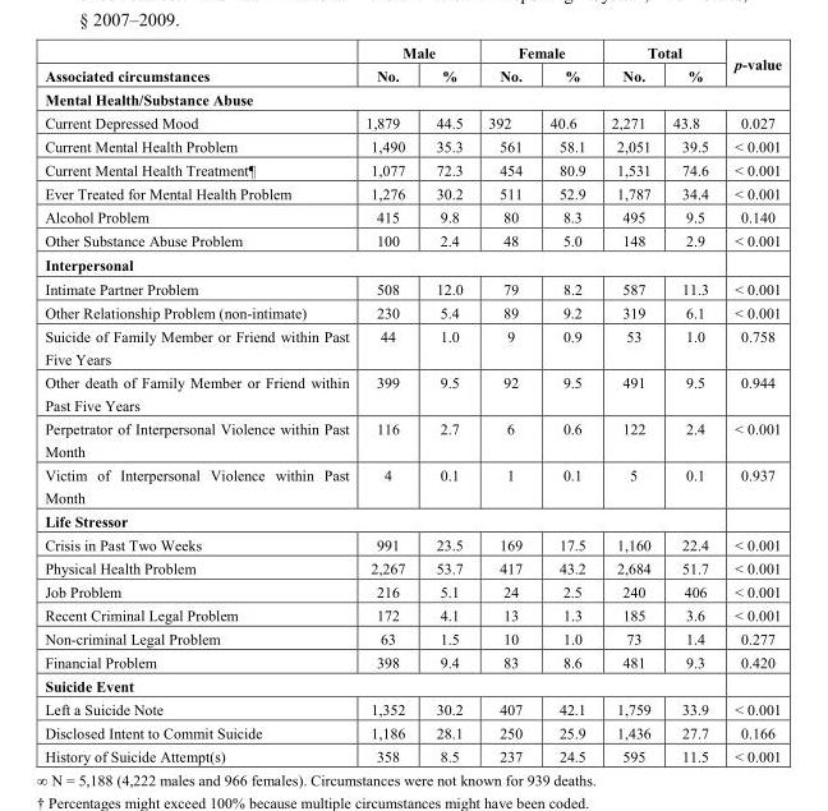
<table><thead><tr><td rowspan="2">Associated circumstances</td><td colspan="2">Male</td><td colspan="2">Female</td><td colspan="2">Total</td><td rowspan="2">p-value</td></tr><tr><td>No.</td><td>%</td><td>No.</td><td>%</td><td>No.</td><td>%</td></tr></thead><tbody><tr><td colspan="8">Mental Health/Substance Abuse</td></tr><tr><td>Current Depressed Mood</td><td>1,879</td><td>44.5</td><td>392</td><td>40.6</td><td>2,271</td><td>43.8</td><td>0.027</td></tr><tr><td>Current Mental Health Problem</td><td>1,490</td><td>35.3</td><td>561</td><td>58.1</td><td>2,051</td><td>39.5</td><td>&lt; 0.001</td></tr><tr><td>Current Mental Health Treatment¶</td><td>1,077</td><td>72.3</td><td>454</td><td>80.9</td><td>1,531</td><td>74.6</td><td>&lt; 0.001</td></tr><tr><td>Ever Treated for Mental Health Problem</td><td>1,276</td><td>30.2</td><td>511</td><td>52.9</td><td>1,787</td><td>34.4</td><td>&lt; 0.001</td></tr><tr><td>Alcohol Problem</td><td>415</td><td>9.8</td><td>80</td><td>8.3</td><td>495</td><td>9.5</td><td>0.140</td></tr><tr><td>Other Substance Abuse Problem</td><td>100</td><td>2.4</td><td>48</td><td>5.0</td><td>148</td><td>2.9</td><td>&lt; 0.001</td></tr><tr><td colspan="8">Interpersonal</td></tr><tr><td>Intimate Partner Problem</td><td>508</td><td>12.0</td><td>79</td><td>8.2</td><td>587</td><td>11.3</td><td>&lt; 0.001</td></tr><tr><td>Other Relationship Problem (non-intimate)</td><td>230</td><td>5.4</td><td>89</td><td>9.2</td><td>319</td><td>6.1</td><td>&lt; 0.001</td></tr><tr><td>Suicide of Family Member or Friend within Past Five Years</td><td>44</td><td>1.0</td><td>9</td><td>0.9</td><td>53</td><td>1.0</td><td>0.758</td></tr><tr><td>Other death of Family Member or Friend within Past Five Years</td><td>399</td><td>9.5</td><td>92</td><td>9.5</td><td>491</td><td>9.5</td><td>0.944</td></tr><tr><td>Perpetrator of Interpersonal Violence within Past Month</td><td>116</td><td>2.7</td><td>6</td><td>0.6</td><td>122</td><td>2.4</td><td>&lt; 0.001</td></tr><tr><td>Victim of Interpersonal Violence within Past Month</td><td>4</td><td>0.1</td><td>1</td><td>0.1</td><td>5</td><td>0.1</td><td>0.937</td></tr><tr><td colspan="8">Life Stressor</td></tr><tr><td>Crisis in Past Two Weeks</td><td>991</td><td>23.5</td><td>169</td><td>17.5</td><td>1,160</td><td>22.4</td><td>&lt; 0.001</td></tr><tr><td>Physical Health Problem</td><td>2,267</td><td>53.7</td><td>417</td><td>43.2</td><td>2,684</td><td>51.7</td><td>&lt; 0.001</td></tr><tr><td>Job Problem</td><td>216</td><td>5.1</td><td>24</td><td>2.5</td><td>240</td><td>406</td><td>&lt; 0.001</td></tr><tr><td>Recent Criminal Legal Problem</td><td>172</td><td>4.1</td><td>13</td><td>1.3</td><td>185</td><td>3.6</td><td>&lt; 0.001</td></tr><tr><td>Non-criminal Legal Problem</td><td>63</td><td>1.5</td><td>10</td><td>1.0</td><td>73</td><td>1.4</td><td>0.277</td></tr><tr><td>Financial Problem</td><td>398</td><td>9.4</td><td>83</td><td>8.6</td><td>481</td><td>9.3</td><td>0.420</td></tr><tr><td colspan="8">Suicide Event</td></tr><tr><td>Left a Suicide Note</td><td>1,352</td><td>30.2</td><td>407</td><td>42.1</td><td>1,759</td><td>33.9</td><td>&lt; 0.001</td></tr><tr><td>Disclosed Intent to Commit Suicide</td><td>1,186</td><td>28.1</td><td>250</td><td>25.9</td><td>1,436</td><td>27.7</td><td>0.166</td></tr><tr><td>History of Suicide Attempt(s)</td><td>358</td><td>8.5</td><td>237</td><td>24.5</td><td>595</td><td>11.5</td><td>&lt; 0.001</td></tr></tbody></table>